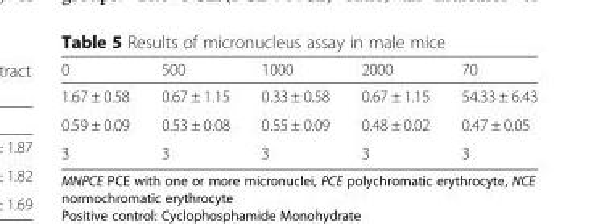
<table><thead><tr><td>0</td><td>500</td><td>1000</td><td>2000</td><td>70</td></tr></thead><tbody><tr><td>1.67 ± 0.58</td><td>0.67 ± 1.15</td><td>0.33 ± 0.58</td><td>0.67 ± 1.15</td><td>54.33 ± 6.43</td></tr><tr><td>0.59 ± 0.09</td><td>0.53 ± 0.08</td><td>0.55 ± 0.09</td><td>0.48 ± 0.02</td><td>0.47 ± 0.05</td></tr><tr><td>3</td><td>3</td><td>3</td><td>3</td><td>3</td></tr></tbody></table>